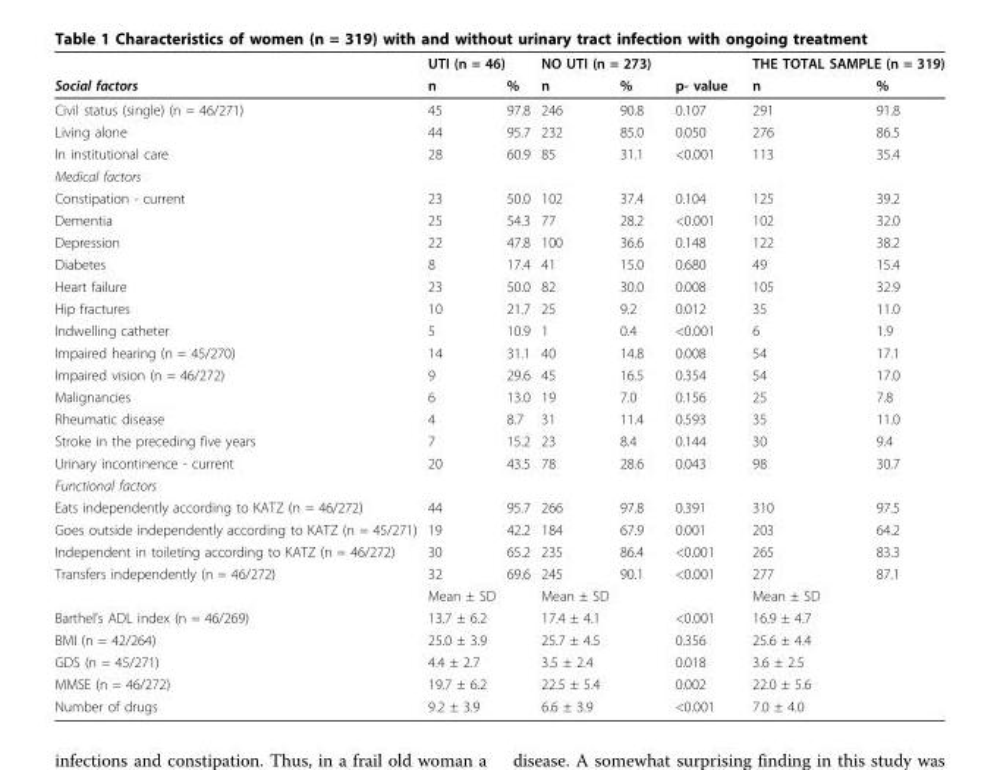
<table><thead><tr><td rowspan="2">Social factors</td><td colspan="2">UTI (n = 46)</td><td colspan="3">NO UTI (n = 273)</td><td colspan="2">THE TOTAL SAMPLE (n = 319)</td></tr><tr><td>n</td><td>%</td><td>n</td><td>%</td><td>p- value</td><td>n</td><td>%</td></tr></thead><tbody><tr><td>Civil status (single) (n = 46/271)</td><td>45</td><td>97.8</td><td>246</td><td>90.8</td><td>0.107</td><td>291</td><td>91.8</td></tr><tr><td>Living alone</td><td>44</td><td>95.7</td><td>232</td><td>85.0</td><td>0.050</td><td>276</td><td>86.5</td></tr><tr><td>In institutional care</td><td>28</td><td>60.9</td><td>85</td><td>31.1</td><td>&lt;0.001</td><td>113</td><td>35.4</td></tr><tr><td colspan="8">Medical factors</td></tr><tr><td>Constipation - current</td><td>23</td><td>50.0</td><td>102</td><td>37.4</td><td>0.104</td><td>125</td><td>39.2</td></tr><tr><td>Dementia</td><td>25</td><td>54.3</td><td>77</td><td>28.2</td><td>&lt;0.001</td><td>102</td><td>32.0</td></tr><tr><td>Depression</td><td>22</td><td>47.8</td><td>100</td><td>36.6</td><td>0.148</td><td>122</td><td>38.2</td></tr><tr><td>Diabetes</td><td>8</td><td>17.4</td><td>41</td><td>15.0</td><td>0.680</td><td>49</td><td>15.4</td></tr><tr><td>Heart failure</td><td>23</td><td>50.0</td><td>82</td><td>30.0</td><td>0.008</td><td>105</td><td>32.9</td></tr><tr><td>Hip fractures</td><td>10</td><td>21.7</td><td>25</td><td>9.2</td><td>0.012</td><td>35</td><td>11.0</td></tr><tr><td>Indwelling catheter</td><td>5</td><td>10.9</td><td>1</td><td>0.4</td><td>&lt;0.001</td><td>6</td><td>1.9</td></tr><tr><td>Impaired hearing (n = 45/270)</td><td>14</td><td>31.1</td><td>40</td><td>14.8</td><td>0.008</td><td>54</td><td>17.1</td></tr><tr><td>Impaired vision (n = 46/272)</td><td>9</td><td>29.6</td><td>45</td><td>16.5</td><td>0.354</td><td>54</td><td>17.0</td></tr><tr><td>Malignancies</td><td>6</td><td>13.0</td><td>19</td><td>7.0</td><td>0.156</td><td>25</td><td>7.8</td></tr><tr><td>Rheumatic disease</td><td>4</td><td>8.7</td><td>31</td><td>11.4</td><td>0.593</td><td>35</td><td>11.0</td></tr><tr><td>Stroke in the preceding five years</td><td>7</td><td>15.2</td><td>23</td><td>8.4</td><td>0.144</td><td>30</td><td>9.4</td></tr><tr><td>Urinary incontinence - current</td><td>20</td><td>43.5</td><td>78</td><td>28.6</td><td>0.043</td><td>98</td><td>30.7</td></tr><tr><td colspan="8">Functional factors</td></tr><tr><td>Eats independently according to KATZ (n = 46/272)</td><td>44</td><td>95.7</td><td>266</td><td>97.8</td><td>0.391</td><td>310</td><td>97.5</td></tr><tr><td>Goes outside independently according to KATZ (n = 45/271)</td><td>19</td><td>42.2</td><td>184</td><td>67.9</td><td>0.001</td><td>203</td><td>64.2</td></tr><tr><td>Independent in toileting according to KATZ (n = 46/272)</td><td>30</td><td>65.2</td><td>235</td><td>86.4</td><td>&lt;0.001</td><td>265</td><td>83.3</td></tr><tr><td rowspan="2">Transfers independently (n = 46/272)</td><td>32</td><td>69.6</td><td>245</td><td>90.1</td><td>&lt;0.001</td><td>277</td><td>87.1</td></tr><tr><td>Mean ± SD</td><td></td><td>Mean ± SD</td><td></td><td></td><td>Mean ± SD</td><td></td></tr><tr><td>Barthel’s ADL index (n = 46/269)</td><td>13.7 ± 6.2</td><td></td><td>17.4 ± 4.1</td><td></td><td>&lt;0.001</td><td>16.9 ± 4.7</td><td></td></tr><tr><td>BMI (n = 42/264)</td><td>25.0 ± 3.9</td><td></td><td>25.7 ± 4.5</td><td></td><td>0.356</td><td>25.6 ± 4.4</td><td></td></tr><tr><td>GDS (n = 45/271)</td><td>4.4 ± 2.7</td><td></td><td>3.5 ± 2.4</td><td></td><td>0.018</td><td>3.6 ± 2.5</td><td></td></tr><tr><td>MMSE (n = 46/272)</td><td>19.7 ± 6.2</td><td></td><td>22.5 ± 5.4</td><td></td><td>0.002</td><td>22.0 ± 5.6</td><td></td></tr><tr><td>Number of drugs</td><td>9.2 ± 3.9</td><td></td><td>6.6 ± 3.9</td><td></td><td>&lt;0.001</td><td>7.0 ± 4.0</td><td></td></tr></tbody></table>